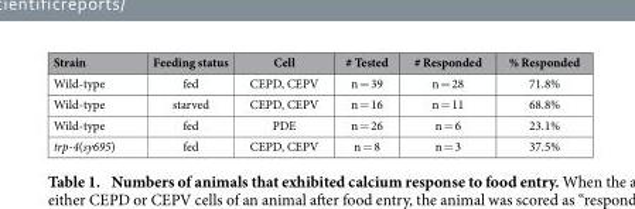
<table><thead><tr><td>Strain</td><td>Feeding status</td><td>Cell</td><td># Tested</td><td># Responded</td><td>% Responded</td></tr></thead><tbody><tr><td>Wild-type</td><td>fed</td><td>CEPD, CEPV</td><td>n = 39</td><td>n = 28</td><td>71.8%</td></tr><tr><td>Wild-type</td><td>starved</td><td>CEPD, CEPV</td><td>n = 16</td><td>n = 11</td><td>68.8%</td></tr><tr><td>Wild-type</td><td>fed</td><td>PDE</td><td>n = 26</td><td>n = 6</td><td>23.1%</td></tr><tr><td>trp-4(sy695)</td><td>fed</td><td>CEPD, CEPV</td><td>n = 8</td><td>n = 3</td><td>37.5%</td></tr></tbody></table>